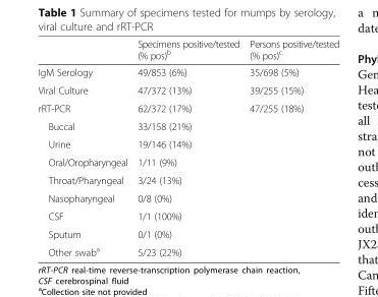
<table><thead><tr><td></td><td>Specimens positive/tested (% pos)<sup>b</sup></td><td>Persons positive/tested (% pos)<sup>c</sup></td></tr></thead><tbody><tr><td>IgM Serology</td><td>49/853 (6%)</td><td>35/698 (5%)</td></tr><tr><td>Viral Culture</td><td>47/372 (13%)</td><td>39/255 (15%)</td></tr><tr><td>rRT-PCR</td><td>62/372 (17%)</td><td>47/255 (18%)</td></tr><tr><td>Buccal</td><td>33/158 (21%)</td><td></td></tr><tr><td>Urine</td><td>19/146 (14%)</td><td></td></tr><tr><td>Oral/Oropharyngeal</td><td>1/11 (9%)</td><td></td></tr><tr><td>Throat/Pharyngeal</td><td>3/24 (13%)</td><td></td></tr><tr><td>Nasopharyngeal</td><td>0/8 (0%)</td><td></td></tr><tr><td>CSF</td><td>1/1 (100%)</td><td></td></tr><tr><td>Sputum</td><td>0/1 (0%)</td><td></td></tr><tr><td>Other swab<sup>a</sup></td><td>5/23 (22%)</td><td></td></tr></tbody></table>